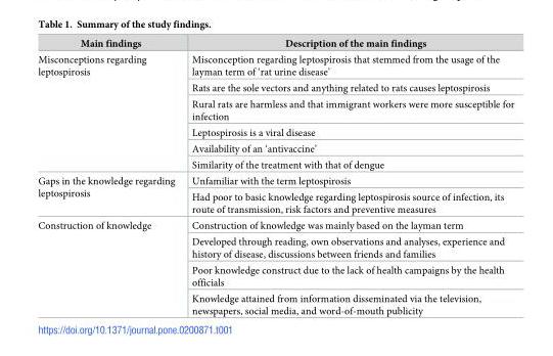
<table><thead><tr><td>Main findings</td><td>Description of the main findings</td></tr></thead><tbody><tr><td rowspan="6">Misconceptions regarding leptospirosis</td><td>Misconception regarding leptospirosis that stemmed from the usage of the layman term of ‘rat urine disease’</td></tr><tr><td>Rats are the sole vectors and anything related to rats causes leptospirosis</td></tr><tr><td>Rural rats are harmless and that immigrant workers were more susceptible for infection</td></tr><tr><td>Leptospirosis is a viral disease</td></tr><tr><td>Availability of an ‘antivaccine’</td></tr><tr><td>Similarity of the treatment with that of dengue</td></tr><tr><td rowspan="2">Gaps in the knowledge regarding leptospirosis</td><td>Unfamiliar with the term leptospirosis</td></tr><tr><td>Had poor to basic knowledge regarding leptospirosis source of infection, its route of transmission, risk factors and preventive measures</td></tr><tr><td rowspan="4">Construction of knowledge</td><td>Construction of knowledge was mainly based on the layman term</td></tr><tr><td>Developed through reading, own observations and analyses, experience and history of disease, discussions between friends and families</td></tr><tr><td>Poor knowledge construct due to the lack of health campaigns by the health officials</td></tr><tr><td>Knowledge attained from information disseminated via the television, newspapers, social media, and word-of-mouth publicity</td></tr></tbody></table>